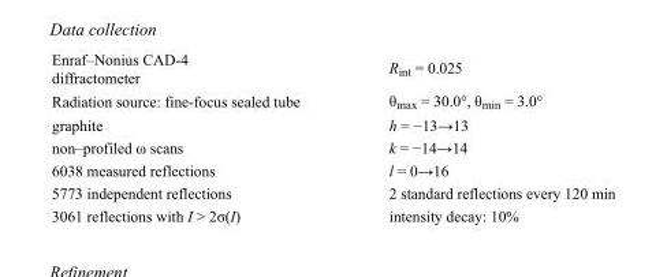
<table><tbody><tr><td>Enraf–Nonius CAD-4 diffractometer</td><td>R<sub>int</sub> = 0.025</td></tr><tr><td>Radiation source: fine-focus sealed tube</td><td>θ<sub>max</sub> = 30.0°, θ<sub>min</sub> = 3.0°</td></tr><tr><td>graphite</td><td>h = −13→13</td></tr><tr><td>non–profiled ω scans</td><td>k = −14→14</td></tr><tr><td>6038 measured reflections</td><td>l = 0→16</td></tr><tr><td>5773 independent reflections</td><td>2 standard reflections every 120 min</td></tr><tr><td>3061 reflections with I &gt; 2σ(I)</td><td>intensity decay: 10%</td></tr></tbody></table>